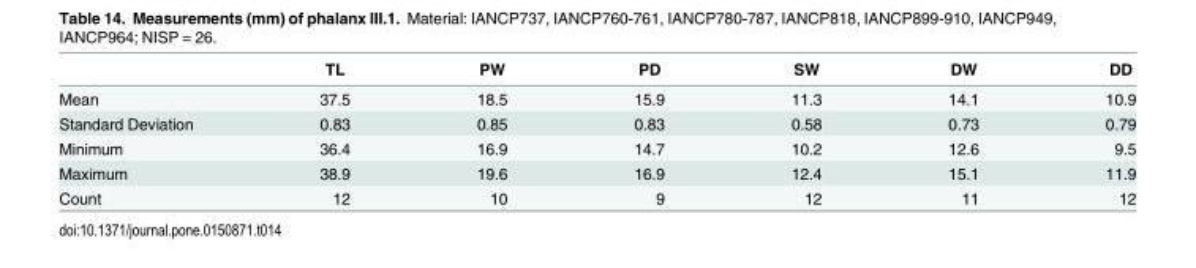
<table><thead><tr><td></td><td>TL</td><td>PW</td><td>PD</td><td>SW</td><td>DW</td><td>DD</td></tr></thead><tbody><tr><td>Mean</td><td>37.5</td><td>18.5</td><td>15.9</td><td>11.3</td><td>14.1</td><td>10.9</td></tr><tr><td>Standard Deviation</td><td>0.83</td><td>0.85</td><td>0.83</td><td>0.58</td><td>0.73</td><td>0.79</td></tr><tr><td>Minimum</td><td>36.4</td><td>16.9</td><td>14.7</td><td>10.2</td><td>12.6</td><td>9.5</td></tr><tr><td>Maximum</td><td>38.9</td><td>19.6</td><td>16.9</td><td>12.4</td><td>15.1</td><td>11.9</td></tr><tr><td>Count</td><td>12</td><td>10</td><td>9</td><td>12</td><td>11</td><td>12</td></tr></tbody></table>